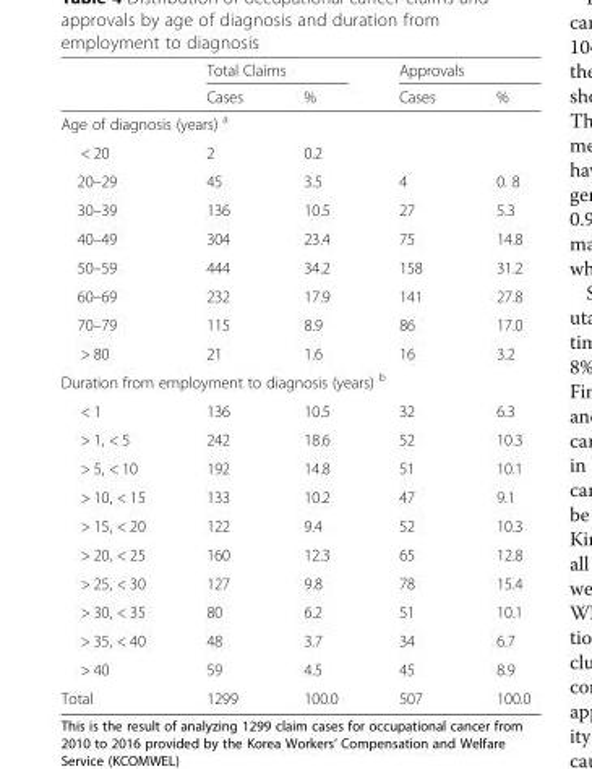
<table><thead><tr><td rowspan="2"></td><td colspan="2">Total Claims</td><td colspan="2">Approvals</td></tr><tr><td>Cases</td><td>%</td><td>Cases</td><td>%</td></tr></thead><tbody><tr><td colspan="5">Age of diagnosis (years) <sup>a</sup></td></tr><tr><td>&lt; 20</td><td>2</td><td>0.2</td><td></td><td></td></tr><tr><td>20–29</td><td>45</td><td>3.5</td><td>4</td><td>0. 8</td></tr><tr><td>30–39</td><td>136</td><td>10.5</td><td>27</td><td>5.3</td></tr><tr><td>40–49</td><td>304</td><td>23.4</td><td>75</td><td>14.8</td></tr><tr><td>50–59</td><td>444</td><td>34.2</td><td>158</td><td>31.2</td></tr><tr><td>60–69</td><td>232</td><td>17.9</td><td>141</td><td>27.8</td></tr><tr><td>70–79</td><td>115</td><td>8.9</td><td>86</td><td>17.0</td></tr><tr><td>&gt; 80</td><td>21</td><td>1.6</td><td>16</td><td>3.2</td></tr><tr><td colspan="5">Duration from employment to diagnosis (years) <sup>b</sup></td></tr><tr><td>&lt; 1</td><td>136</td><td>10.5</td><td>32</td><td>6.3</td></tr><tr><td>&gt; 1, &lt; 5</td><td>242</td><td>18.6</td><td>52</td><td>10.3</td></tr><tr><td>&gt; 5, &lt; 10</td><td>192</td><td>14.8</td><td>51</td><td>10.1</td></tr><tr><td>&gt; 10, &lt; 15</td><td>133</td><td>10.2</td><td>47</td><td>9.1</td></tr><tr><td>&gt; 15, &lt; 20</td><td>122</td><td>9.4</td><td>52</td><td>10.3</td></tr><tr><td>&gt; 20, &lt; 25</td><td>160</td><td>12.3</td><td>65</td><td>12.8</td></tr><tr><td>&gt; 25, &lt; 30</td><td>127</td><td>9.8</td><td>78</td><td>15.4</td></tr><tr><td>&gt; 30, &lt; 35</td><td>80</td><td>6.2</td><td>51</td><td>10.1</td></tr><tr><td>&gt; 35, &lt; 40</td><td>48</td><td>3.7</td><td>34</td><td>6.7</td></tr><tr><td>&gt; 40</td><td>59</td><td>4.5</td><td>45</td><td>8.9</td></tr><tr><td>Total</td><td>1299</td><td>100.0</td><td>507</td><td>100.0</td></tr></tbody></table>